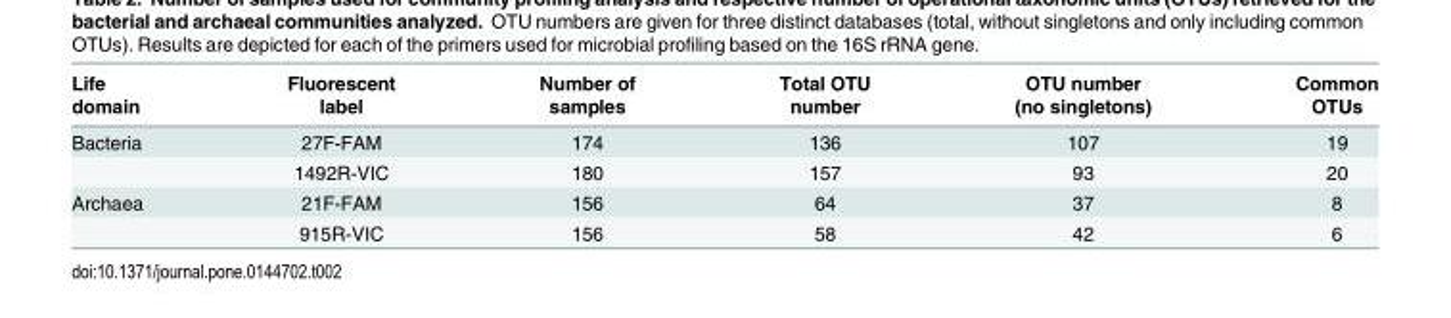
<table><thead><tr><td rowspan="2">Life domain</td><td rowspan="2">Fluorescent label</td><td rowspan="2">Number of samples</td><td rowspan="2">Total OTU number</td><td rowspan="2">OTU number (no singletons)</td><td rowspan="2">Common OTUs</td></tr><tr></tr></thead><tbody><tr><td rowspan="2">Bacteria</td><td>27F-FAM</td><td>174</td><td>136</td><td>107</td><td>19</td></tr><tr><td>1492R-VIC</td><td>180</td><td>157</td><td>93</td><td>20</td></tr><tr><td rowspan="2">Archaea</td><td>21F-FAM</td><td>156</td><td>64</td><td>37</td><td>8</td></tr><tr><td>915R-VIC</td><td>156</td><td>58</td><td>42</td><td>6</td></tr></tbody></table>